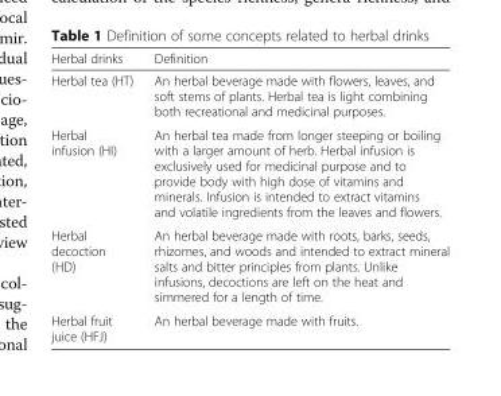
<table><thead><tr><td>Herbal drinks</td><td>Definition</td></tr></thead><tbody><tr><td>Herbal tea (HT)</td><td>An herbal beverage made with flowers, leaves, and soft stems of plants. Herbal tea is light combining both recreational and medicinal purposes.</td></tr><tr><td>Herbal infusion (HI)</td><td>An herbal tea made from longer steeping or boiling with a larger amount of herb. Herbal infusion is exclusively used for medicinal purpose and to provide body with high dose of vitamins and minerals. Infusion is intended to extract vitamins and volatile ingredients from the leaves and flowers.</td></tr><tr><td>Herbal decoction (HD)</td><td>An herbal beverage made with roots, barks, seeds, rhizomes, and woods and intended to extract mineral salts and bitter principles from plants. Unlike infusions, decoctions are left on the heat and simmered for a length of time.</td></tr><tr><td>Herbal fruit juice (HFJ)</td><td>An herbal beverage made with fruits.</td></tr></tbody></table>